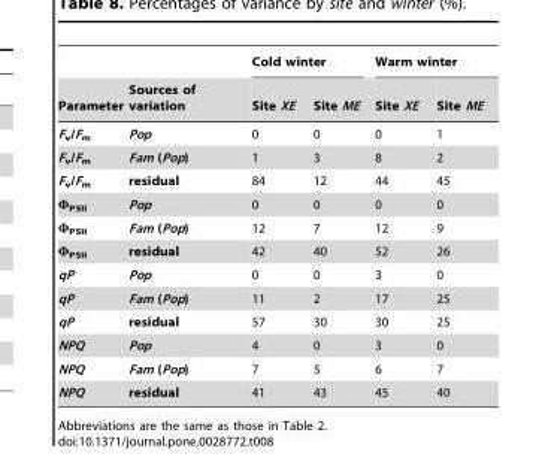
<table><thead><tr><td rowspan="2">Parameter</td><td rowspan="2">Sources of variation</td><td colspan="2">Cold winter</td><td colspan="2">Warm winter</td></tr><tr><td>Site XE</td><td>Site ME</td><td>Site XE</td><td>Site ME</td></tr></thead><tbody><tr><td>F<sub>v</sub>/F<sub>m</sub></td><td>Pop</td><td>0</td><td>0</td><td>0</td><td>1</td></tr><tr><td>F<sub>v</sub>/F<sub>m</sub></td><td>Fam (Pop)</td><td>1</td><td>3</td><td>8</td><td>2</td></tr><tr><td>F<sub>v</sub>/F<sub>m</sub></td><td>residual</td><td>84</td><td>12</td><td>44</td><td>45</td></tr><tr><td>Φ<sub>PSII</sub></td><td>Pop</td><td>0</td><td>0</td><td>0</td><td>0</td></tr><tr><td>Φ<sub>PSII</sub></td><td>Fam (Pop)</td><td>12</td><td>7</td><td>12</td><td>9</td></tr><tr><td>Φ<sub>PSII</sub></td><td>residual</td><td>42</td><td>40</td><td>52</td><td>26</td></tr><tr><td>qP</td><td>Pop</td><td>0</td><td>0</td><td>3</td><td>0</td></tr><tr><td>qP</td><td>Fam (Pop)</td><td>11</td><td>2</td><td>17</td><td>25</td></tr><tr><td>qP</td><td>residual</td><td>57</td><td>30</td><td>30</td><td>25</td></tr><tr><td>NPQ</td><td>Pop</td><td>4</td><td>0</td><td>3</td><td>0</td></tr><tr><td>NPQ</td><td>Fam (Pop)</td><td>7</td><td>5</td><td>6</td><td>7</td></tr><tr><td>NPQ</td><td>residual</td><td>41</td><td>43</td><td>45</td><td>40</td></tr></tbody></table>